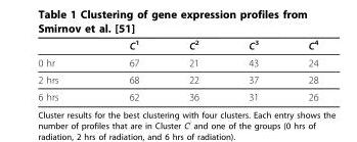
<table><thead><tr><td></td><td>C<sup>1</sup></td><td>C<sup>2</sup></td><td>C<sup>3</sup></td><td>C<sup>4</sup></td></tr></thead><tbody><tr><td>0 hr</td><td>67</td><td>21</td><td>43</td><td>24</td></tr><tr><td>2 hrs</td><td>68</td><td>22</td><td>37</td><td>28</td></tr><tr><td>6 hrs</td><td>62</td><td>36</td><td>31</td><td>26</td></tr></tbody></table>